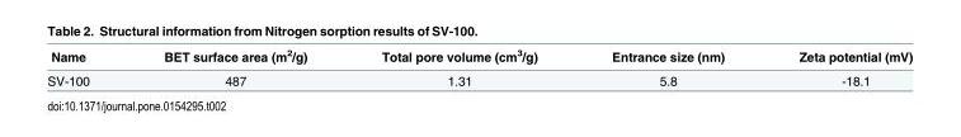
<table><thead><tr><td>Name</td><td>BET surface area (m<sup>2</sup>/g)</td><td>Total pore volume (cm<sup>3</sup>/g)</td><td>Entrance size (nm)</td><td>Zeta potential (mV)</td></tr></thead><tbody><tr><td>SV-100</td><td>487</td><td>1.31</td><td>5.8</td><td>-18.1</td></tr></tbody></table>